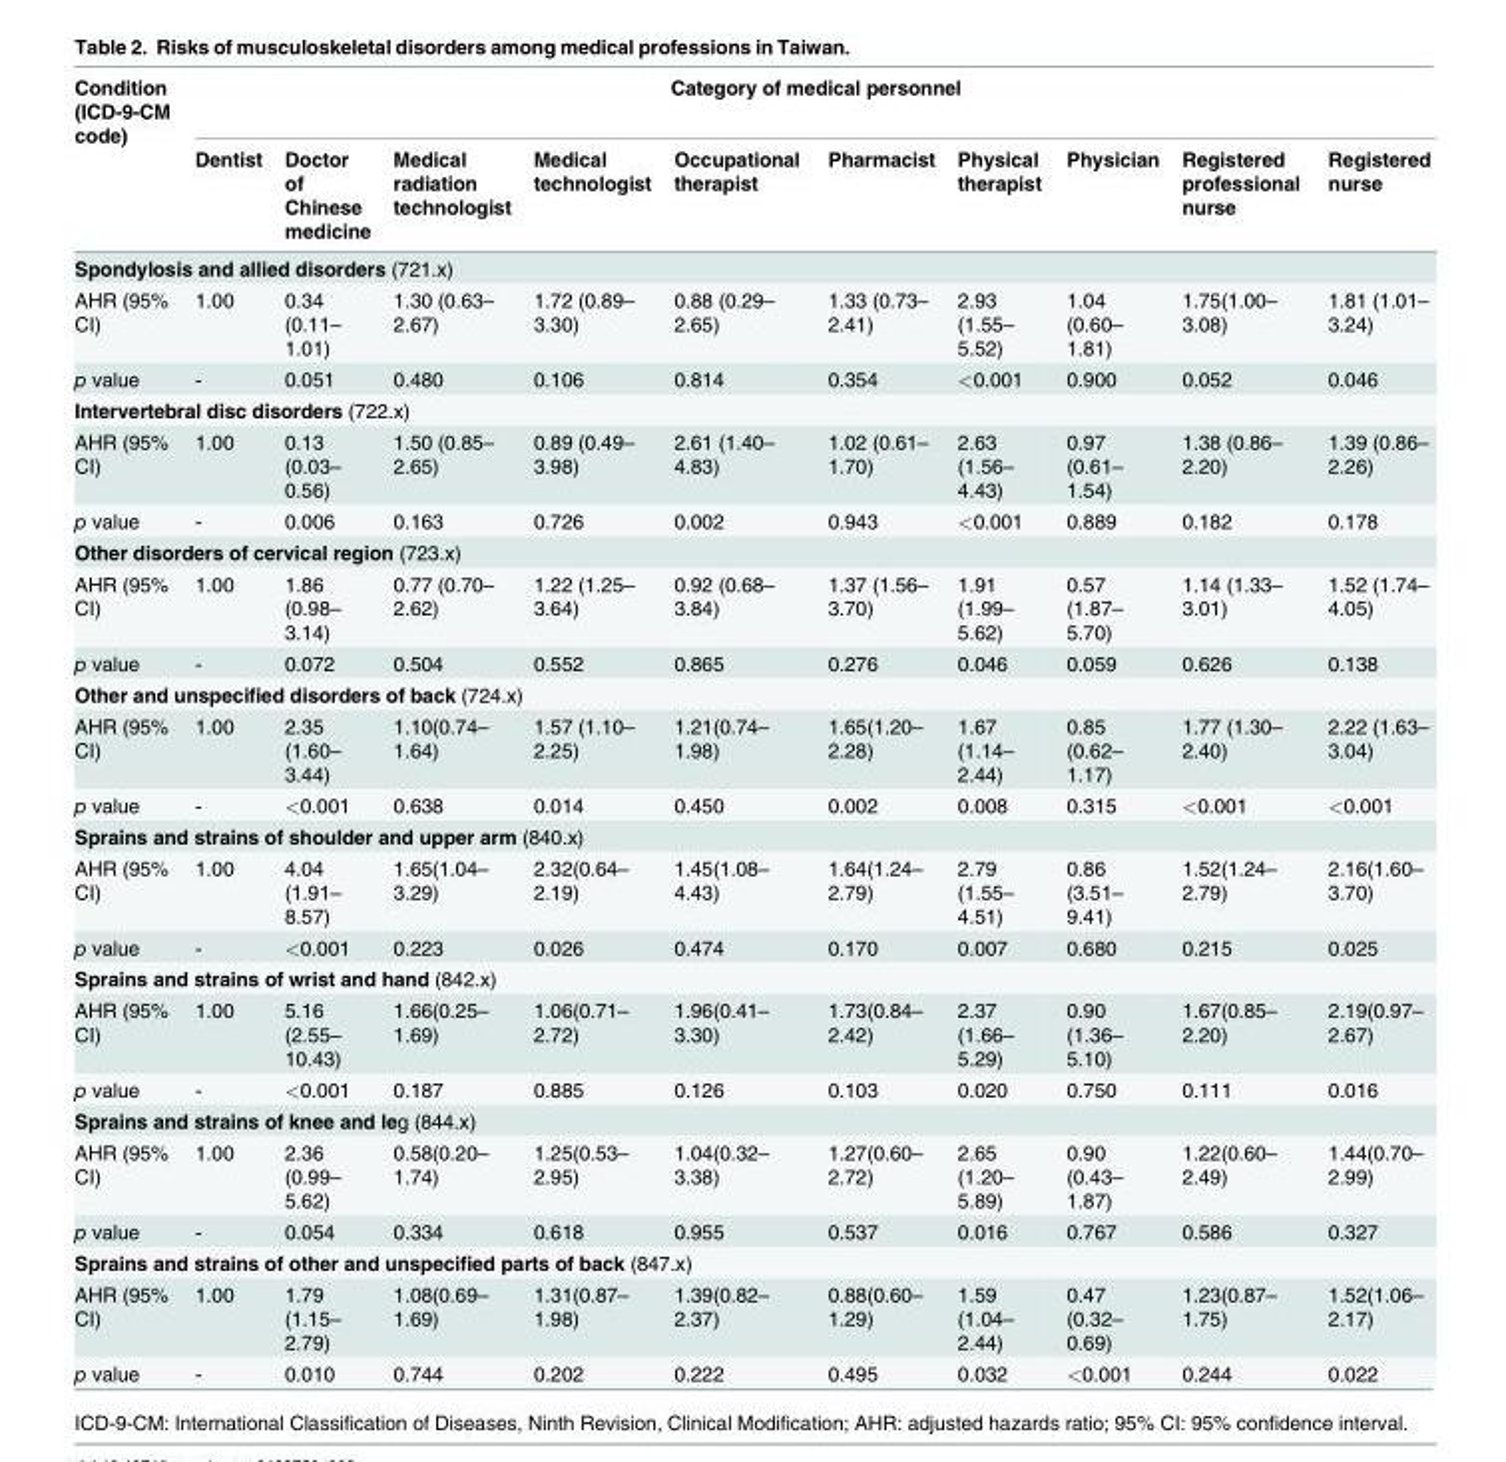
<table><thead><tr><td rowspan="2">Condition (ICD-9-CM code)</td><td colspan="10">Category of medical personnel</td></tr><tr><td>Dentist</td><td>Doctor of Chinese medicine</td><td>Medical radiation technologist</td><td>Medical technologist</td><td>Occupational therapist</td><td>Pharmacist</td><td>Physical therapist</td><td>Physician</td><td>Registered professional nurse</td><td>Registered nurse</td></tr></thead><tbody><tr><td colspan="11">Spondylosis and allied disorders (721.x)</td></tr><tr><td>AHR (95% CI)</td><td>1.00</td><td>0.34 (0.11– 1.01)</td><td>1.30 (0.63– 2.67)</td><td>1.72 (0.89– 3.30)</td><td>0.88 (0.29– 2.65)</td><td>1.33 (0.73– 2.41)</td><td>2.93 (1.55– 5.52)</td><td>1.04 (0.60– 1.81)</td><td>1.75(1.00– 3.08)</td><td>1.81 (1.01– 3.24)</td></tr><tr><td>p value</td><td>-</td><td>0.051</td><td>0.480</td><td>0.106</td><td>0.814</td><td>0.354</td><td>&lt;0.001</td><td>0.900</td><td>0.052</td><td>0.046</td></tr><tr><td colspan="11">Intervertebral disc disorders (722.x)</td></tr><tr><td>AHR (95% CI)</td><td>1.00</td><td>0.13 (0.03– 0.56)</td><td>1.50 (0.85– 2.65)</td><td>0.89 (0.49– 3.98)</td><td>2.61 (1.40– 4.83)</td><td>1.02 (0.61– 1.70)</td><td>2.63 (1.56– 4.43)</td><td>0.97 (0.61– 1.54)</td><td>1.38 (0.86– 2.20)</td><td>1.39 (0.86– 2.26)</td></tr><tr><td>p value</td><td>-</td><td>0.006</td><td>0.163</td><td>0.726</td><td>0.002</td><td>0.943</td><td>&lt;0.001</td><td>0.889</td><td>0.182</td><td>0.178</td></tr><tr><td colspan="11">Other disorders of cervical region (723.x)</td></tr><tr><td>AHR (95% CI)</td><td>1.00</td><td>1.86 (0.98– 3.14)</td><td>0.77 (0.70– 2.62)</td><td>1.22 (1.25– 3.64)</td><td>0.92 (0.68– 3.84)</td><td>1.37 (1.56– 3.70)</td><td>1.91 (1.99– 5.62)</td><td>0.57 (1.87– 5.70)</td><td>1.14 (1.33– 3.01)</td><td>1.52 (1.74– 4.05)</td></tr><tr><td>p value</td><td>-</td><td>0.072</td><td>0.504</td><td>0.552</td><td>0.865</td><td>0.276</td><td>0.046</td><td>0.059</td><td>0.626</td><td>0.138</td></tr><tr><td colspan="11">Other and unspecified disorders of back (724.x)</td></tr><tr><td>AHR (95% CI)</td><td>1.00</td><td>2.35 (1.60– 3.44)</td><td>1.10(0.74– 1.64)</td><td>1.57 (1.10– 2.25)</td><td>1.21(0.74– 1.98)</td><td>1.65(1.20– 2.28)</td><td>1.67 (1.14– 2.44)</td><td>0.85 (0.62– 1.17)</td><td>1.77 (1.30– 2.40)</td><td>2.22 (1.63– 3.04)</td></tr><tr><td>p value</td><td>-</td><td>&lt;0.001</td><td>0.638</td><td>0.014</td><td>0.450</td><td>0.002</td><td>0.008</td><td>0.315</td><td>&lt;0.001</td><td>&lt;0.001</td></tr><tr><td colspan="11">Sprains and strains of shoulder and upper arm (840.x)</td></tr><tr><td>AHR (95% CI)</td><td>1.00</td><td>4.04 (1.91– 8.57)</td><td>1.65(1.04– 3.29)</td><td>2.32(0.64– 2.19)</td><td>1.45(1.08– 4.43)</td><td>1.64(1.24– 2.79)</td><td>2.79 (1.55– 4.51)</td><td>0.86 (3.51– 9.41)</td><td>1.52(1.24– 2.79)</td><td>2.16(1.60– 3.70)</td></tr><tr><td>p value</td><td>-</td><td>&lt;0.001</td><td>0.223</td><td>0.026</td><td>0.474</td><td>0.170</td><td>0.007</td><td>0.680</td><td>0.215</td><td>0.025</td></tr><tr><td colspan="11">Sprains and strains of wrist and hand (842.x)</td></tr><tr><td>AHR (95% CI)</td><td>1.00</td><td>5.16 (2.55– 10.43)</td><td>1.66(0.25– 1.69)</td><td>1.06(0.71– 2.72)</td><td>1.96(0.41– 3.30)</td><td>1.73(0.84– 2.42)</td><td>2.37 (1.66– 5.29)</td><td>0.90 (1.36– 5.10)</td><td>1.67(0.85– 2.20)</td><td>2.19(0.97– 2.67)</td></tr><tr><td>p value</td><td>-</td><td>&lt;0.001</td><td>0.187</td><td>0.885</td><td>0.126</td><td>0.103</td><td>0.020</td><td>0.750</td><td>0.111</td><td>0.016</td></tr><tr><td colspan="11">Sprains and strains of knee and leg (844.x)</td></tr><tr><td>AHR (95% CI)</td><td>1.00</td><td>2.36 (0.99– 5.62)</td><td>0.58(0.20– 1.74)</td><td>1.25(0.53– 2.95)</td><td>1.04(0.32– 3.38)</td><td>1.27(0.60– 2.72)</td><td>2.65 (1.20– 5.89)</td><td>0.90 (0.43– 1.87)</td><td>1.22(0.60– 2.49)</td><td>1.44(0.70– 2.99)</td></tr><tr><td>p value</td><td>-</td><td>0.054</td><td>0.334</td><td>0.618</td><td>0.955</td><td>0.537</td><td>0.016</td><td>0.767</td><td>0.586</td><td>0.327</td></tr><tr><td colspan="11">Sprains and strains of other and unspecified parts of back (847.x)</td></tr><tr><td>AHR (95% CI)</td><td>1.00</td><td>1.79 (1.15– 2.79)</td><td>1.08(0.69– 1.69)</td><td>1.31(0.87– 1.98)</td><td>1.39(0.82– 2.37)</td><td>0.88(0.60– 1.29)</td><td>1.59 (1.04– 2.44)</td><td>0.47 (0.32– 0.69)</td><td>1.23(0.87– 1.75)</td><td>1.52(1.06– 2.17)</td></tr><tr><td>p value</td><td>-</td><td>0.010</td><td>0.744</td><td>0.202</td><td>0.222</td><td>0.495</td><td>0.032</td><td>&lt;0.001</td><td>0.244</td><td>0.022</td></tr></tbody></table>